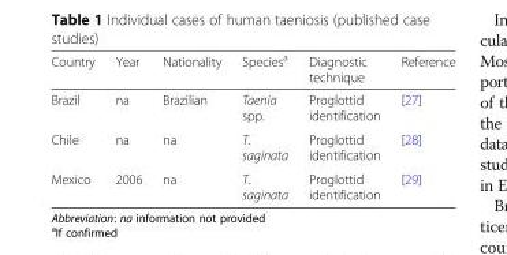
<table><thead><tr><td>Country</td><td>Year</td><td>Nationality</td><td>Species<sup>a</sup></td><td>Diagnostic technique</td><td>Reference</td></tr></thead><tbody><tr><td>Brazil</td><td>na</td><td>Brazilian</td><td>Taenia spp.</td><td>Proglottid identification</td><td>[27]</td></tr><tr><td>Chile</td><td>na</td><td>na</td><td>T. saginata</td><td>Proglottid identification</td><td>[28]</td></tr><tr><td>Mexico</td><td>2006</td><td>na</td><td>T. saginata</td><td>Proglottid identification</td><td>[29]</td></tr></tbody></table>